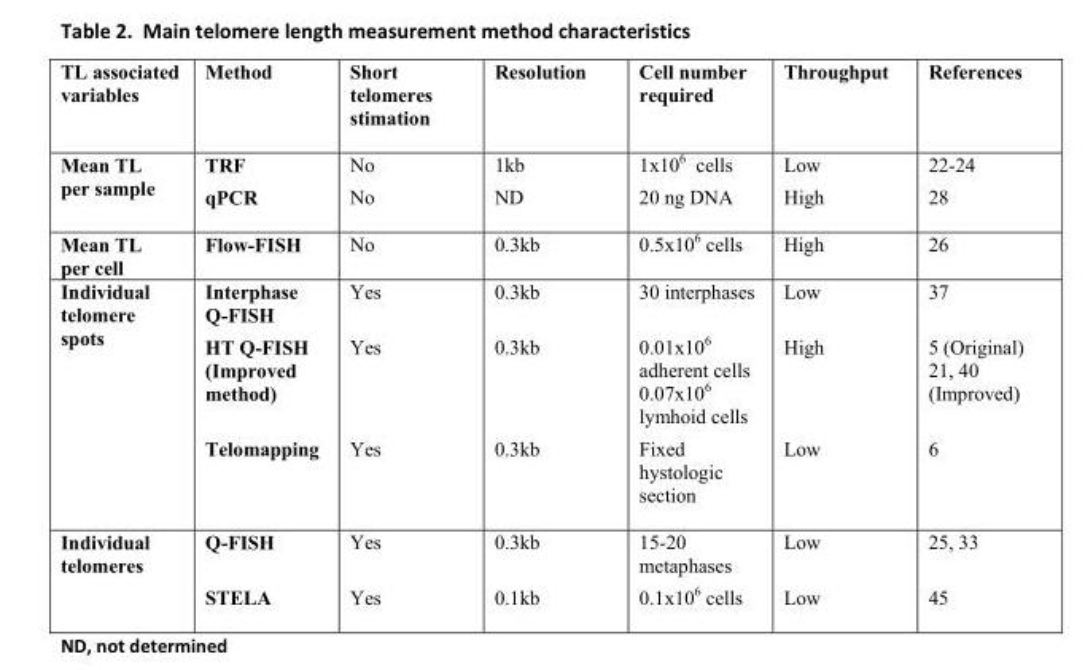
<table><thead><tr><td>TL associated variables</td><td>Method</td><td>Short telomeres stimation</td><td>Resolution</td><td>Cell number required</td><td>Throughput</td><td>References</td></tr></thead><tbody><tr><td>Mean TL per sample</td><td>TRF qPCR</td><td>No No</td><td>1kb ND</td><td>1x106 cells 20 ng DNA</td><td>Low High</td><td>22-24 28</td></tr><tr><td>Mean TL per cell</td><td>Flow-FISH</td><td>No</td><td>0.3kb</td><td>0.5x106 cells</td><td>High</td><td>26</td></tr><tr><td>Individual telomere spots</td><td>Interphase Q-FISH HT Q-FISH (Improved method) Telomapping</td><td>Yes Yes Yes</td><td>0.3kb 0.3kb 0.3kb</td><td>30 interphases 0.01x106 adherent cells 0.07x106 lymhoid cells Fixed hystologic section</td><td>Low High Low</td><td>37 5 (Original) 21, 40 (Improved) 6</td></tr><tr><td>Individual telomeres</td><td>Q-FISH STELA</td><td>Yes Yes</td><td>0.3kb 0.1kb</td><td>15-20 metaphases 0.1x106 cells</td><td>Low Low</td><td>25, 33 45</td></tr></tbody></table>